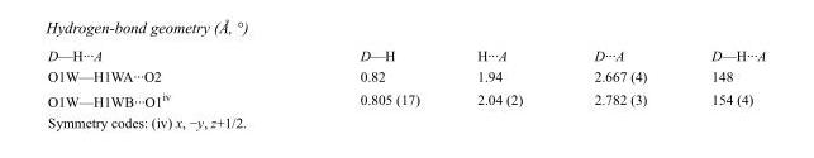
<table><tbody><tr><td>D—H···A</td><td>D—H</td><td>H···A</td><td>D···A</td><td>D—H···A</td></tr><tr><td>O1W—H1WA···O2</td><td>0.82</td><td>1.94</td><td>2.667 (4)</td><td>148</td></tr><tr><td>O1W—H1WB···O1<sup>iv</sup></td><td>0.805 (17)</td><td>2.04 (2)</td><td>2.782 (3)</td><td>154 (4)</td></tr></tbody></table>